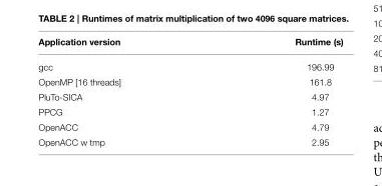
<table><thead><tr><td>Application version</td><td>Runtime (s)</td></tr></thead><tbody><tr><td>gcc</td><td>196.99</td></tr><tr><td>OpenMP [16 threads]</td><td>161.8</td></tr><tr><td>PluTo-SICA</td><td>4.97</td></tr><tr><td>PPCG</td><td>1.27</td></tr><tr><td>OpenACC</td><td>4.79</td></tr><tr><td>OpenACC w tmp</td><td>2.95</td></tr></tbody></table>